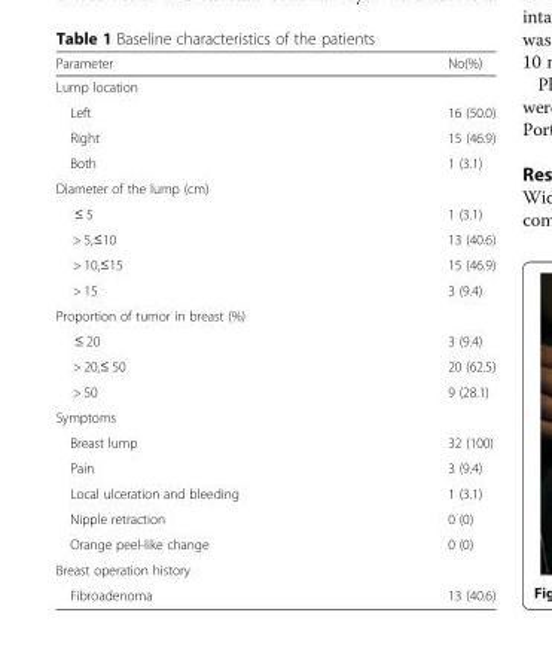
<table><thead><tr><td>Parameter</td><td>No(%)</td></tr></thead><tbody><tr><td colspan="2">Lump location</td></tr><tr><td>Left</td><td>16 (50.0)</td></tr><tr><td>Right</td><td>15 (46.9)</td></tr><tr><td>Both</td><td>1 (3.1)</td></tr><tr><td colspan="2">Diameter of the lump (cm)</td></tr><tr><td>≤ 5</td><td>1 (3.1)</td></tr><tr><td>&gt; 5,≤10</td><td>13 (40.6)</td></tr><tr><td>&gt; 10,≤15</td><td>15 (46.9)</td></tr><tr><td>&gt; 15</td><td>3 (9.4)</td></tr><tr><td colspan="2">Proportion of tumor in breast (%)</td></tr><tr><td>≤ 20</td><td>3 (9.4)</td></tr><tr><td>&gt; 20,≤ 50</td><td>20 (62.5)</td></tr><tr><td>&gt; 50</td><td>9 (28.1)</td></tr><tr><td colspan="2">Symptoms</td></tr><tr><td>Breast lump</td><td>32 (100)</td></tr><tr><td>Pain</td><td>3 (9.4)</td></tr><tr><td>Local ulceration and bleeding</td><td>1 (3.1)</td></tr><tr><td>Nipple retraction</td><td>0 (0)</td></tr><tr><td>Orange peel-like change</td><td>0 (0)</td></tr><tr><td colspan="2">Breast operation history</td></tr><tr><td>Fibroadenoma</td><td>13 (40.6)</td></tr></tbody></table>